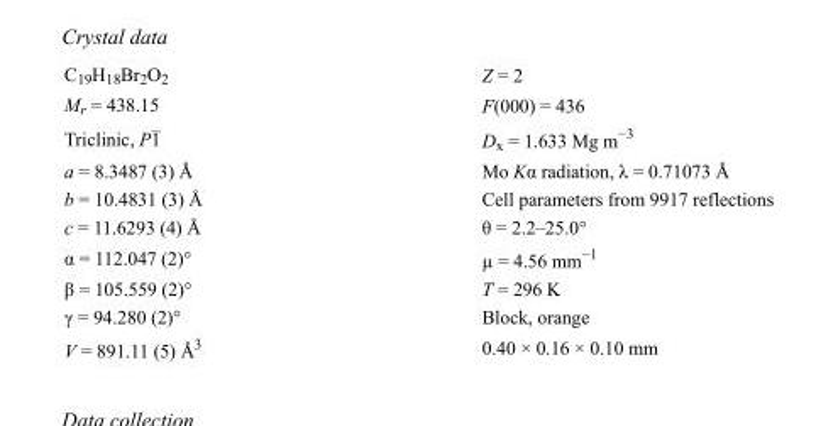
<table><tbody><tr><td>C<sub>19</sub>H<sub>18</sub>Br<sub>2</sub>O<sub>2</sub></td><td>Z = 2</td></tr><tr><td>M<sub>r</sub> = 438.15</td><td>F(000) = 436</td></tr><tr><td>Triclinic, P1</td><td>D<sub>x</sub> = 1.633 Mg m<sup>−3</sup></td></tr><tr><td>a = 8.3487 (3) Å</td><td>Mo Kα radiation, λ = 0.71073 Å</td></tr><tr><td>b = 10.4831 (3) Å</td><td>Cell parameters from 9917 reflections</td></tr><tr><td>c = 11.6293 (4) Å</td><td>θ = 2.2–25.0°</td></tr><tr><td>α = 112.047 (2)°</td><td>µ = 4.56 mm<sup>−1</sup></td></tr><tr><td>β = 105.559 (2)°</td><td>T = 296 K</td></tr><tr><td>γ = 94.280 (2)°</td><td>Block, orange</td></tr><tr><td>V = 891.11 (5) Å<sup>3</sup></td><td>0.40 × 0.16 × 0.10 mm</td></tr></tbody></table>